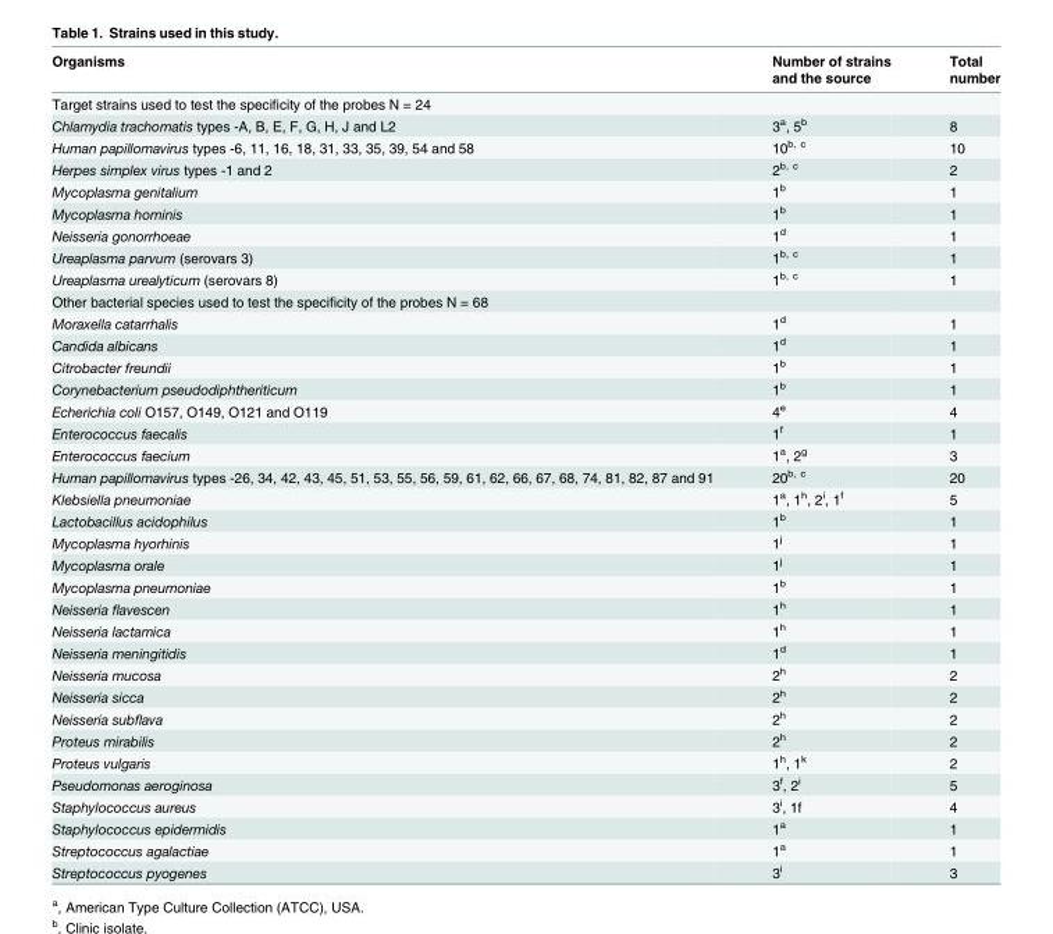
<table><thead><tr><td>Organisms</td><td>Number of strains and the source</td><td>Total number</td></tr></thead><tbody><tr><td colspan="3">Target strains used to test the specificity of the probes N = 24</td></tr><tr><td>Chlamydia trachomatis types -A, B, E, F, G, H, J and L2</td><td>3<sup>a</sup>, 5<sup>b</sup></td><td>8</td></tr><tr><td>Human papillomavirus types -6, 11, 16, 18, 31, 33, 35, 39, 54 and 58</td><td>10<sup>b, c</sup></td><td>10</td></tr><tr><td>Herpes simplex virus types -1 and 2</td><td>2<sup>b, c</sup></td><td>2</td></tr><tr><td>Mycoplasma genitalium</td><td>1<sup>b</sup></td><td>1</td></tr><tr><td>Mycoplasma hominis</td><td>1<sup>b</sup></td><td>1</td></tr><tr><td>Neisseria gonorrhoeae</td><td>1<sup>d</sup></td><td>1</td></tr><tr><td>Ureaplasma parvum (serovars 3)</td><td>1<sup>b, c</sup></td><td>1</td></tr><tr><td>Ureaplasma urealyticum (serovars 8)</td><td>1<sup>b, c</sup></td><td>1</td></tr><tr><td colspan="3">Other bacterial species used to test the specificity of the probes N = 68</td></tr><tr><td>Moraxella catarrhalis</td><td>1<sup>d</sup></td><td>1</td></tr><tr><td>Candida albicans</td><td>1<sup>d</sup></td><td>1</td></tr><tr><td>Citrobacter freundii</td><td>1<sup>b</sup></td><td>1</td></tr><tr><td>Corynebacterium pseudodiphtheriticum</td><td>1<sup>b</sup></td><td>1</td></tr><tr><td>Echerichia coli O157, O149, O121 and O119</td><td>4<sup>e</sup></td><td>4</td></tr><tr><td>Enterococcus faecalis</td><td>1<sup>f</sup></td><td>1</td></tr><tr><td>Enterococcus faecium</td><td>1<sup>a</sup>, 2<sup>g</sup></td><td>3</td></tr><tr><td>Human papillomavirus types -26, 34, 42, 43, 45, 51, 53, 55, 56, 59, 61, 62, 66, 67, 68, 74, 81, 82, 87 and 91</td><td>20<sup>b, c</sup></td><td>20</td></tr><tr><td>Klebsiella pneumoniae</td><td>1<sup>a</sup>, 1<sup>h</sup>, 2<sup>i</sup>, 1<sup>f</sup></td><td>5</td></tr><tr><td>Lactobacillus acidophilus</td><td>1<sup>b</sup></td><td>1</td></tr><tr><td>Mycoplasma hyorhinis</td><td>1<sup>j</sup></td><td>1</td></tr><tr><td>Mycoplasma orale</td><td>1<sup>j</sup></td><td>1</td></tr><tr><td>Mycoplasma pneumoniae</td><td>1<sup>b</sup></td><td>1</td></tr><tr><td>Neisseria flavescen</td><td>1<sup>h</sup></td><td>1</td></tr><tr><td>Neisseria lactamica</td><td>1<sup>h</sup></td><td>1</td></tr><tr><td>Neisseria meningitidis</td><td>1<sup>d</sup></td><td>1</td></tr><tr><td>Neisseria mucosa</td><td>2<sup>h</sup></td><td>2</td></tr><tr><td>Neisseria sicca</td><td>2<sup>h</sup></td><td>2</td></tr><tr><td>Neisseria subflava</td><td>2<sup>h</sup></td><td>2</td></tr><tr><td>Proteus mirabilis</td><td>2<sup>h</sup></td><td>2</td></tr><tr><td>Proteus vulgaris</td><td>1<sup>h</sup>, 1<sup>k</sup></td><td>2</td></tr><tr><td>Pseudomonas aeroginosa</td><td>3<sup>f</sup>, 2<sup>i</sup></td><td>5</td></tr><tr><td>Staphylococcus aureus</td><td>3<sup>i</sup>, 1<sup>f</sup></td><td>4</td></tr><tr><td>Staphylococcus epidermidis</td><td>1<sup>a</sup></td><td>1</td></tr><tr><td>Streptococcus agalactiae</td><td>1<sup>a</sup></td><td>1</td></tr><tr><td>Streptococcus pyogenes</td><td>3<sup>i</sup></td><td>3</td></tr></tbody></table>